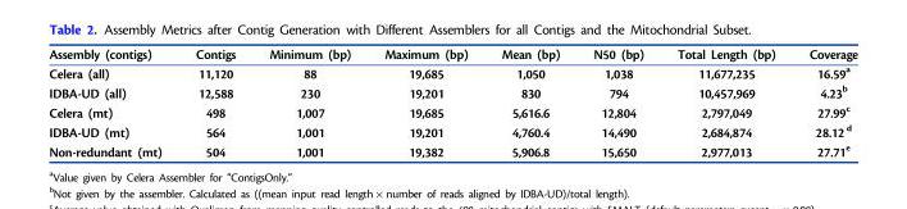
<table><thead><tr><td>Assembly (contigs)</td><td>Contigs</td><td>Minimum (bp)</td><td>Maximum (bp)</td><td>Mean (bp)</td><td>N50 (bp)</td><td>Total Length (bp)</td><td>Coverage</td></tr></thead><tbody><tr><td>Celera (all)</td><td>11,120</td><td>88</td><td>19,685</td><td>1,050</td><td>1,038</td><td>11,677,235</td><td>16.59<sup>a</sup></td></tr><tr><td>IDBA-UD (all)</td><td>12,588</td><td>230</td><td>19,201</td><td>830</td><td>794</td><td>10,457,969</td><td>4.23<sup>b</sup></td></tr><tr><td>Celera (mt)</td><td>498</td><td>1,007</td><td>19,685</td><td>5,616.6</td><td>12,804</td><td>2,797,049</td><td>27.99<sup>c</sup></td></tr><tr><td>IDBA-UD (mt)</td><td>564</td><td>1,001</td><td>19,201</td><td>4,760.4</td><td>14,490</td><td>2,684,874</td><td>28.12 <sup>d</sup></td></tr><tr><td>Non-redundant (mt)</td><td>504</td><td>1,001</td><td>19,382</td><td>5,906.8</td><td>15,650</td><td>2,977,013</td><td>27.71<sup>e</sup></td></tr></tbody></table>